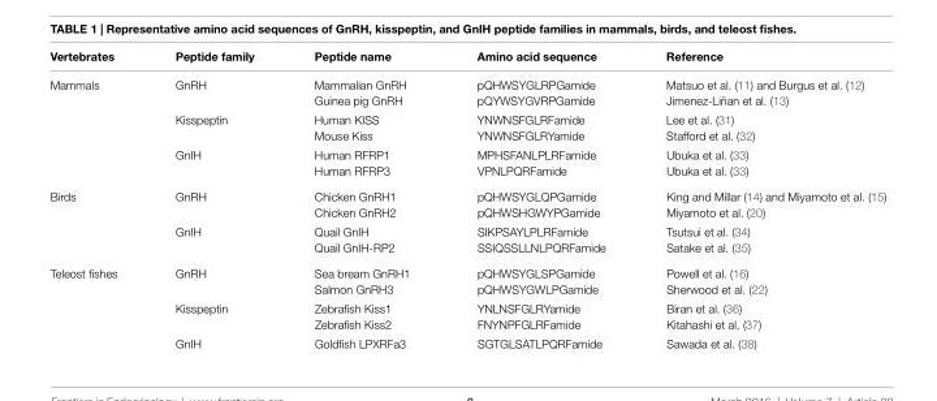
<table><thead><tr><td>vertebrates</td><td>Peptide family</td><td>Peptide name</td><td>Amino acid sequence</td><td>reference</td></tr></thead><tbody><tr><td rowspan="6">Mammals</td><td rowspan="2">GnRH</td><td>Mammalian GnRH</td><td>pQHWSYGLRPGamide</td><td>Matsuo et al. (11) and Burgus et al. (12)</td></tr><tr><td>Guinea pig GnRH</td><td>pQYWSYGVRPGamide</td><td>Jimenez-Liñan et al. (13)</td></tr><tr><td rowspan="2">Kisspeptin</td><td>Human KISS</td><td>YNWNSFGLRFamide</td><td>Lee et al. (31)</td></tr><tr><td>Mouse Kiss</td><td>YNWNSFGLRYamide</td><td>Stafford et al. (32)</td></tr><tr><td rowspan="2">GnIH</td><td>Human RFRP1</td><td>MPHSFANLPLRFamide</td><td>Ubuka et al. (33)</td></tr><tr><td>Human RFRP3</td><td>VPNLPQRFamide</td><td>Ubuka et al. (33)</td></tr><tr><td rowspan="4">Birds</td><td rowspan="2">GnRH</td><td>Chicken GnRH1</td><td>pQHWSYGLQPGamide</td><td>King and Millar (14) and Miyamoto et al. (15)</td></tr><tr><td>Chicken GnRH2</td><td>pQHWSHGWYPGamide</td><td>Miyamoto et al. (20)</td></tr><tr><td rowspan="2">GnIH</td><td>Quail GnIH</td><td>SIKPSAYLPLRFamide</td><td>Tsutsui et al. (34)</td></tr><tr><td>Quail GnIH-RP2</td><td>SSIQSSLLNLPQRFamide</td><td>Satake et al. (35)</td></tr><tr><td rowspan="5">Teleost fishes</td><td rowspan="2">GnRH</td><td>Sea bream GnRH1</td><td>pQHWSYGLSPGamide</td><td>Powell et al. (16)</td></tr><tr><td>Salmon GnRH3</td><td>pQHWSYGWLPGamide</td><td>Sherwood et al. (22)</td></tr><tr><td rowspan="2">Kisspeptin</td><td>Zebrafish Kiss1</td><td>YNLNSFGLRYamide</td><td>Biran et al. (36)</td></tr><tr><td>Zebrafish Kiss2</td><td>FNYNPFGLRFamide</td><td>Kitahashi et al. (37)</td></tr><tr><td>GnIH</td><td>Goldfish LPXRFa3</td><td>SGTGLSATLPQRFamide</td><td>Sawada et al. (38)</td></tr></tbody></table>